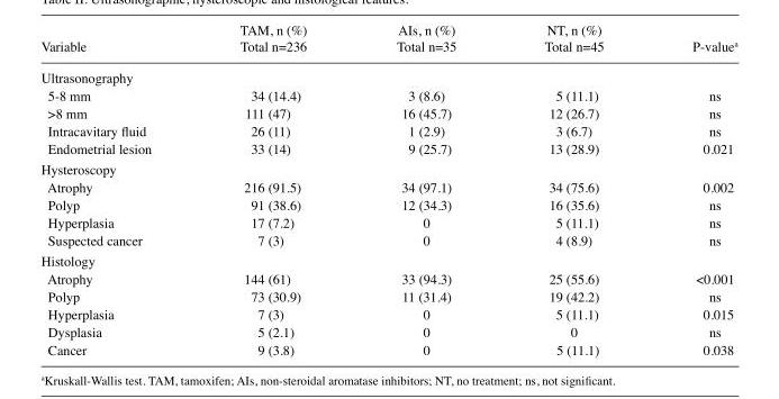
<table><thead><tr><td>Variable</td><td>Total n=236</td><td>Total n=35</td><td>Total n=45</td><td>P-value<sup>a</sup></td></tr></thead><tbody><tr><td colspan="5">Ultrasonography</td></tr><tr><td>5-8 mm</td><td>34 (14.4)</td><td>3 (8.6)</td><td>5 (11.1)</td><td>ns</td></tr><tr><td>&gt;8 mm</td><td>111 (47)</td><td>16 (45.7)</td><td>12 (26.7)</td><td>ns</td></tr><tr><td>Intracavitary fluid</td><td>26 (11)</td><td>1 (2.9)</td><td>3 (6.7)</td><td>ns</td></tr><tr><td>Endometrial lesion</td><td>33 (14)</td><td>9 (25.7)</td><td>13 (28.9)</td><td>0.021</td></tr><tr><td colspan="5">Hysteroscopy</td></tr><tr><td>Atrophy</td><td>216 (91.5)</td><td>34 (97.1)</td><td>34 (75.6)</td><td>0.002</td></tr><tr><td>Polyp</td><td>91 (38.6)</td><td>12 (34.3)</td><td>16 (35.6)</td><td>ns</td></tr><tr><td>Hyperplasia</td><td>17 (7.2)</td><td>0</td><td>5 (11.1)</td><td>ns</td></tr><tr><td>Suspected cancer</td><td>7 (3)</td><td>0</td><td>4 (8.9)</td><td>ns</td></tr><tr><td colspan="5">Histology</td></tr><tr><td>Atrophy</td><td>144 (61)</td><td>33 (94.3)</td><td>25 (55.6)</td><td>&lt;0.001</td></tr><tr><td>Polyp</td><td>73 (30.9)</td><td>11 (31.4)</td><td>19 (42.2)</td><td>ns</td></tr><tr><td>Hyperplasia</td><td>7 (3)</td><td>0</td><td>5 (11.1)</td><td>0.015</td></tr><tr><td>Dysplasia</td><td>5 (2.1)</td><td>0</td><td>0</td><td>ns</td></tr><tr><td>Cancer</td><td>9 (3.8)</td><td>0</td><td>5 (11.1)</td><td>0.038</td></tr></tbody></table>